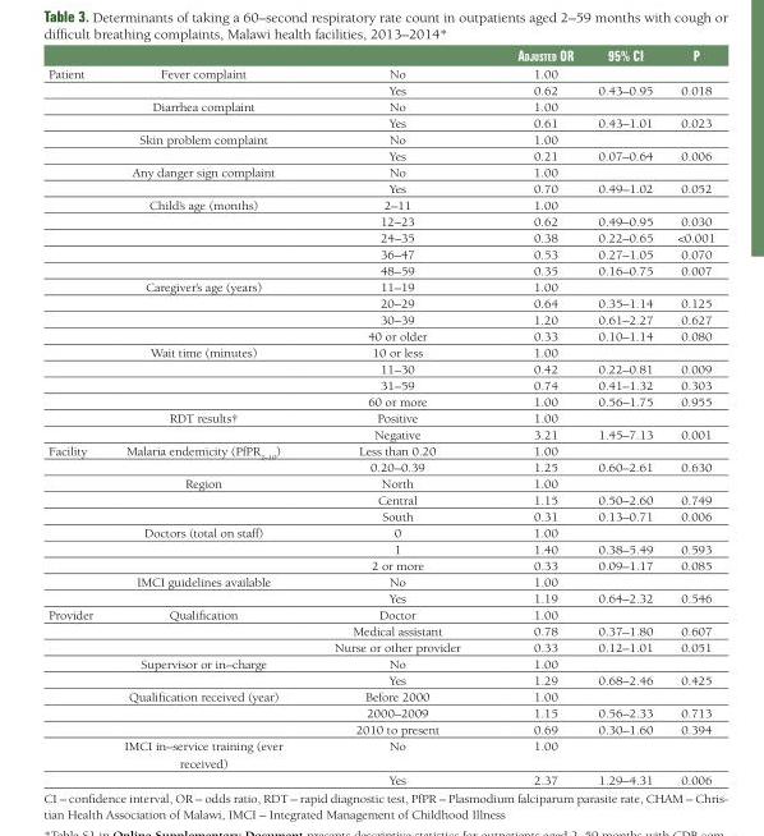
<table><thead><tr><td></td><td></td><td></td><td>adjusted Or</td><td>95% Ci</td><td>p</td></tr></thead><tbody><tr><td rowspan="23">Patient</td><td>Fever complaint</td><td>No</td><td>1.00</td><td></td><td></td></tr><tr><td></td><td>Yes</td><td>0.62</td><td>0.43–0.95</td><td>0.018</td></tr><tr><td>Diarrhea complaint</td><td>No</td><td>1.00</td><td></td><td></td></tr><tr><td></td><td>Yes</td><td>0.61</td><td>0.43–1.01</td><td>0.023</td></tr><tr><td>Skin problem complaint</td><td>No</td><td>1.00</td><td></td><td></td></tr><tr><td></td><td>Yes</td><td>0.21</td><td>0.07–0.64</td><td>0.006</td></tr><tr><td>Any danger sign complaint</td><td>No</td><td>1.00</td><td></td><td></td></tr><tr><td></td><td>Yes</td><td>0.70</td><td>0.49–1.02</td><td>0.052</td></tr><tr><td>Child’s age (months)</td><td>2–11</td><td>1.00</td><td></td><td></td></tr><tr><td></td><td>12–23</td><td>0.62</td><td>0.49–0.95</td><td>0.030</td></tr><tr><td></td><td>24–35</td><td>0.38</td><td>0.22–0.65</td><td>&lt;0.001</td></tr><tr><td></td><td>36–47</td><td>0.53</td><td>0.27–1.05</td><td>0.070</td></tr><tr><td></td><td>48–59</td><td>0.35</td><td>0.16–0.75</td><td>0.007</td></tr><tr><td>Caregiver’s age (years)</td><td>11–19</td><td>1.00</td><td></td><td></td></tr><tr><td></td><td>20–29</td><td>0.64</td><td>0.35–1.14</td><td>0.125</td></tr><tr><td></td><td>30–39</td><td>1.20</td><td>0.61–2.27</td><td>0.627</td></tr><tr><td></td><td>40 or older</td><td>0.33</td><td>0.10–1.14</td><td>0.080</td></tr><tr><td>Wait time (minutes)</td><td>10 or less</td><td>1.00</td><td></td><td></td></tr><tr><td></td><td>11–30</td><td>0.42</td><td>0.22–0.81</td><td>0.009</td></tr><tr><td></td><td>31–59</td><td>0.74</td><td>0.41–1.32</td><td>0.303</td></tr><tr><td></td><td>60 or more</td><td>1.00</td><td>0.56–1.75</td><td>0.955</td></tr><tr><td>RDT results†</td><td>Positive</td><td>1.00</td><td></td><td></td></tr><tr><td></td><td>Negative</td><td>3.21</td><td>1.45–7.13</td><td>0.001</td></tr><tr><td rowspan="10">Facility</td><td>Malaria endemicity (PfPR<sub>2–10</sub>)</td><td>Less than 0.20</td><td>1.00</td><td></td><td></td></tr><tr><td></td><td>0.20–0.39</td><td>1.25</td><td>0.60–2.61</td><td>0.630</td></tr><tr><td>Region</td><td>North</td><td>1.00</td><td></td><td></td></tr><tr><td></td><td>Central</td><td>1.15</td><td>0.50–2.60</td><td>0.749</td></tr><tr><td></td><td>South</td><td>0.31</td><td>0.13–0.71</td><td>0.006</td></tr><tr><td>Doctors (total on staff)</td><td>0</td><td>1.00</td><td></td><td></td></tr><tr><td></td><td>1</td><td>1.40</td><td>0.38–5.49</td><td>0.593</td></tr><tr><td></td><td>2 or more</td><td>0.33</td><td>0.09–1.17</td><td>0.085</td></tr><tr><td>IMCI guidelines available</td><td>No</td><td>1.00</td><td></td><td></td></tr><tr><td></td><td>Yes</td><td>1.19</td><td>0.64–2.32</td><td>0.546</td></tr><tr><td rowspan="10">Provider</td><td>Qualification</td><td>Doctor</td><td>1.00</td><td></td><td></td></tr><tr><td></td><td>Medical assistant</td><td>0.78</td><td>0.37–1.80</td><td>0.607</td></tr><tr><td></td><td>Nurse or other provider</td><td>0.33</td><td>0.12–1.01</td><td>0.051</td></tr><tr><td>Supervisor or in–charge</td><td>No</td><td>1.00</td><td></td><td></td></tr><tr><td></td><td>Yes</td><td>1.29</td><td>0.68–2.46</td><td>0.425</td></tr><tr><td>Qualification received (year)</td><td>Before 2000</td><td>1.00</td><td></td><td></td></tr><tr><td></td><td>2000–2009</td><td>1.15</td><td>0.56–2.33</td><td>0.713</td></tr><tr><td></td><td>2010 to present</td><td>0.69</td><td>0.30–1.60</td><td>0.394</td></tr><tr><td>IMCI in–service training (ever received)</td><td>No</td><td>1.00</td><td></td><td></td></tr><tr><td></td><td>Yes</td><td>2.37</td><td>1.29–4.31</td><td>0.006</td></tr></tbody></table>